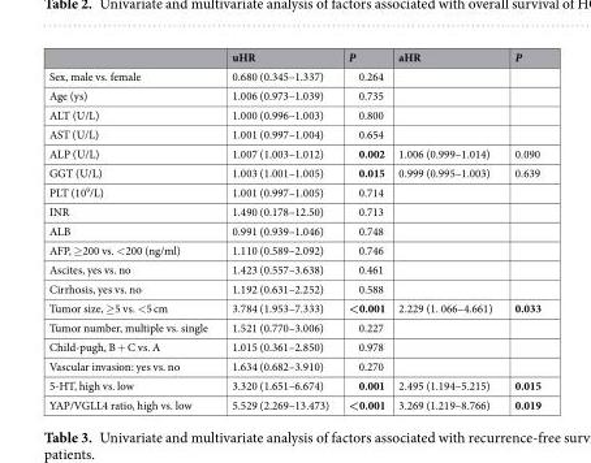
<table><thead><tr><td></td><td>uHR</td><td>P</td><td>aHR</td><td>P</td></tr></thead><tbody><tr><td>Sex, male vs. female</td><td>0.680 (0.345–1.337)</td><td>0.264</td><td></td><td></td></tr><tr><td>Age (ys)</td><td>1.006 (0.973–1.039)</td><td>0.735</td><td></td><td></td></tr><tr><td>ALT (U/L)</td><td>1.000 (0.996–1.003)</td><td>0.800</td><td></td><td></td></tr><tr><td>AST (U/L)</td><td>1.001 (0.997–1.004)</td><td>0.654</td><td></td><td></td></tr><tr><td>ALP (U/L)</td><td>1.007 (1.003–1.012)</td><td>0.002</td><td>1.006 (0.999–1.014)</td><td>0.090</td></tr><tr><td>GGT (U/L)</td><td>1.003 (1.001–1.005)</td><td>0.015</td><td>0.999 (0.995–1.003)</td><td>0.639</td></tr><tr><td>PLT (10<sup>9</sup>/L)</td><td>1.001 (0.997–1.005)</td><td>0.714</td><td></td><td></td></tr><tr><td>INR</td><td>1.490 (0.178–12.50)</td><td>0.713</td><td></td><td></td></tr><tr><td>ALB</td><td>0.991 (0.939–1.046)</td><td>0.748</td><td></td><td></td></tr><tr><td>AFP, ≥200 vs. &lt;200 (ng/ml)</td><td>1.110 (0.589–2.092)</td><td>0.746</td><td></td><td></td></tr><tr><td>Ascites, yes vs. no</td><td>1.423 (0.557–3.638)</td><td>0.461</td><td></td><td></td></tr><tr><td>Cirrhosis, yes vs. no</td><td>1.192 (0.631–2.252)</td><td>0.588</td><td></td><td></td></tr><tr><td>Tumor size, ≥5 vs. &lt;5 cm</td><td>3.784 (1.953–7.333)</td><td>&lt;0.001</td><td>2.229 (1. 066–4.661)</td><td>0.033</td></tr><tr><td>Tumor number, multiple vs. single</td><td>1.521 (0.770–3.006)</td><td>0.227</td><td></td><td></td></tr><tr><td>Child-pugh, B + C vs. A</td><td>1.015 (0.361–2.850)</td><td>0.978</td><td></td><td></td></tr><tr><td>Vascular invasion: yes vs. no</td><td>1.634 (0.682–3.910)</td><td>0.270</td><td></td><td></td></tr><tr><td>5-HT, high vs. low</td><td>3.320 (1.651–6.674)</td><td>0.001</td><td>2.495 (1.194–5.215)</td><td>0.015</td></tr><tr><td>YAP/VGLL4 ratio, high vs. low</td><td>5.529 (2.269–13.473)</td><td>&lt;0.001</td><td>3.269 (1.219–8.766)</td><td>0.019</td></tr></tbody></table>